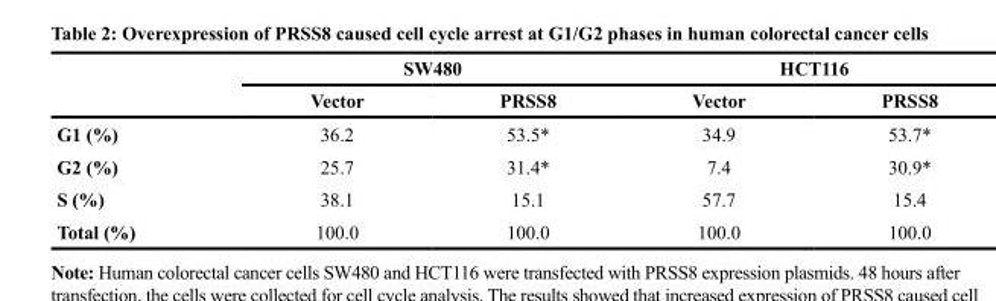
<table><thead><tr><td rowspan="2"></td><td colspan="2">SW480</td><td colspan="2">HCT116</td></tr><tr><td>Vector</td><td>PRSS8</td><td>Vector</td><td>PRSS8</td></tr></thead><tbody><tr><td>G1 (%)</td><td>36.2</td><td>53.5*</td><td>34.9</td><td>53.7*</td></tr><tr><td>G2 (%)</td><td>25.7</td><td>31.4*</td><td>7.4</td><td>30.9*</td></tr><tr><td>S (%)</td><td>38.1</td><td>15.1</td><td>57.7</td><td>15.4</td></tr><tr><td>Total (%)</td><td>100.0</td><td>100.0</td><td>100.0</td><td>100.0</td></tr></tbody></table>